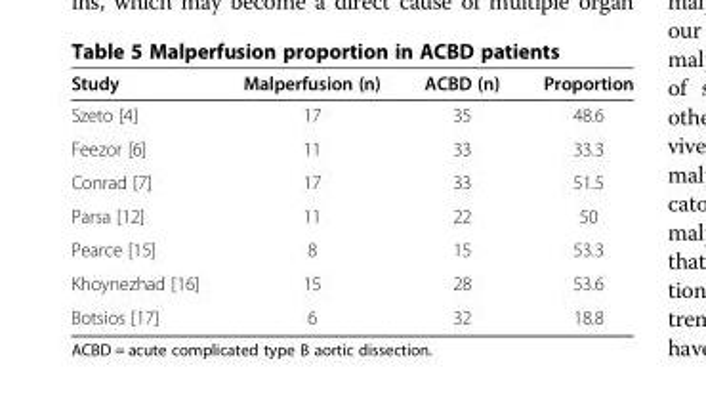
<table><thead><tr><td>Study</td><td>Malperfusion (n)</td><td>ACBD (n)</td><td>Proportion</td></tr></thead><tbody><tr><td>Szeto [4]</td><td>17</td><td>35</td><td>48.6</td></tr><tr><td>Feezor [6]</td><td>11</td><td>33</td><td>33.3</td></tr><tr><td>Conrad [7]</td><td>17</td><td>33</td><td>51.5</td></tr><tr><td>Parsa [12]</td><td>11</td><td>22</td><td>50</td></tr><tr><td>Pearce [15]</td><td>8</td><td>15</td><td>53.3</td></tr><tr><td>Khoynezhad [16]</td><td>15</td><td>28</td><td>53.6</td></tr><tr><td>Botsios [17]</td><td>6</td><td>32</td><td>18.8</td></tr></tbody></table>